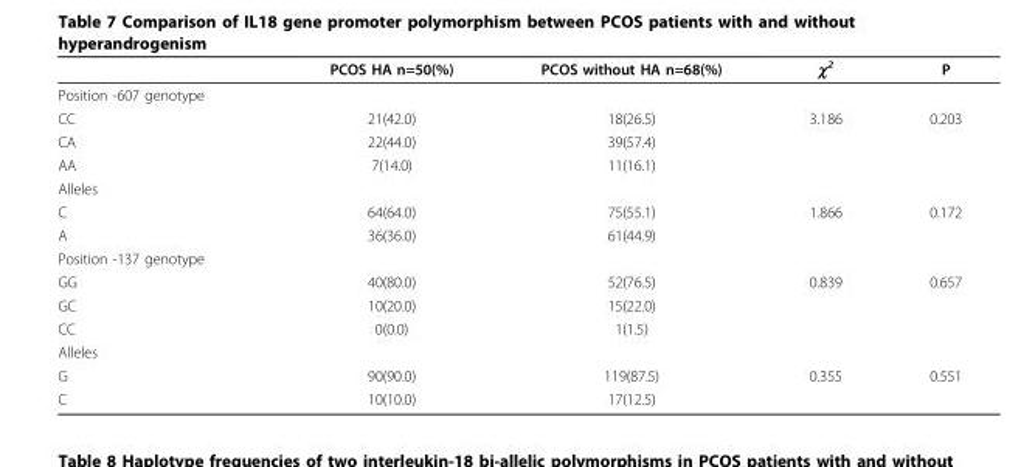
<table><thead><tr><td></td><td>PCOS HA n=50(%)</td><td>PCOS without HA n=68(%)</td><td>χ<sup>2</sup></td><td>P</td></tr></thead><tbody><tr><td colspan="5">Position -607 genotype</td></tr><tr><td>CC</td><td>21(42.0)</td><td>18(26.5)</td><td>3.186</td><td>0.203</td></tr><tr><td>CA</td><td>22(44.0)</td><td>39(57.4)</td><td></td><td></td></tr><tr><td>AA</td><td>7(14.0)</td><td>11(16.1)</td><td></td><td></td></tr><tr><td colspan="5">Alleles</td></tr><tr><td>C</td><td>64(64.0)</td><td>75(55.1)</td><td>1.866</td><td>0.172</td></tr><tr><td>A</td><td>36(36.0)</td><td>61(44.9)</td><td></td><td></td></tr><tr><td colspan="5">Position -137 genotype</td></tr><tr><td>GG</td><td>40(80.0)</td><td>52(76.5)</td><td>0.839</td><td>0.657</td></tr><tr><td>GC</td><td>10(20.0)</td><td>15(22.0)</td><td></td><td></td></tr><tr><td>CC</td><td>0(0.0)</td><td>1(1.5)</td><td></td><td></td></tr><tr><td colspan="5">Alleles</td></tr><tr><td>G</td><td>90(90.0)</td><td>119(87.5)</td><td>0.355</td><td>0.551</td></tr><tr><td>C</td><td>10(10.0)</td><td>17(12.5)</td><td></td><td></td></tr></tbody></table>